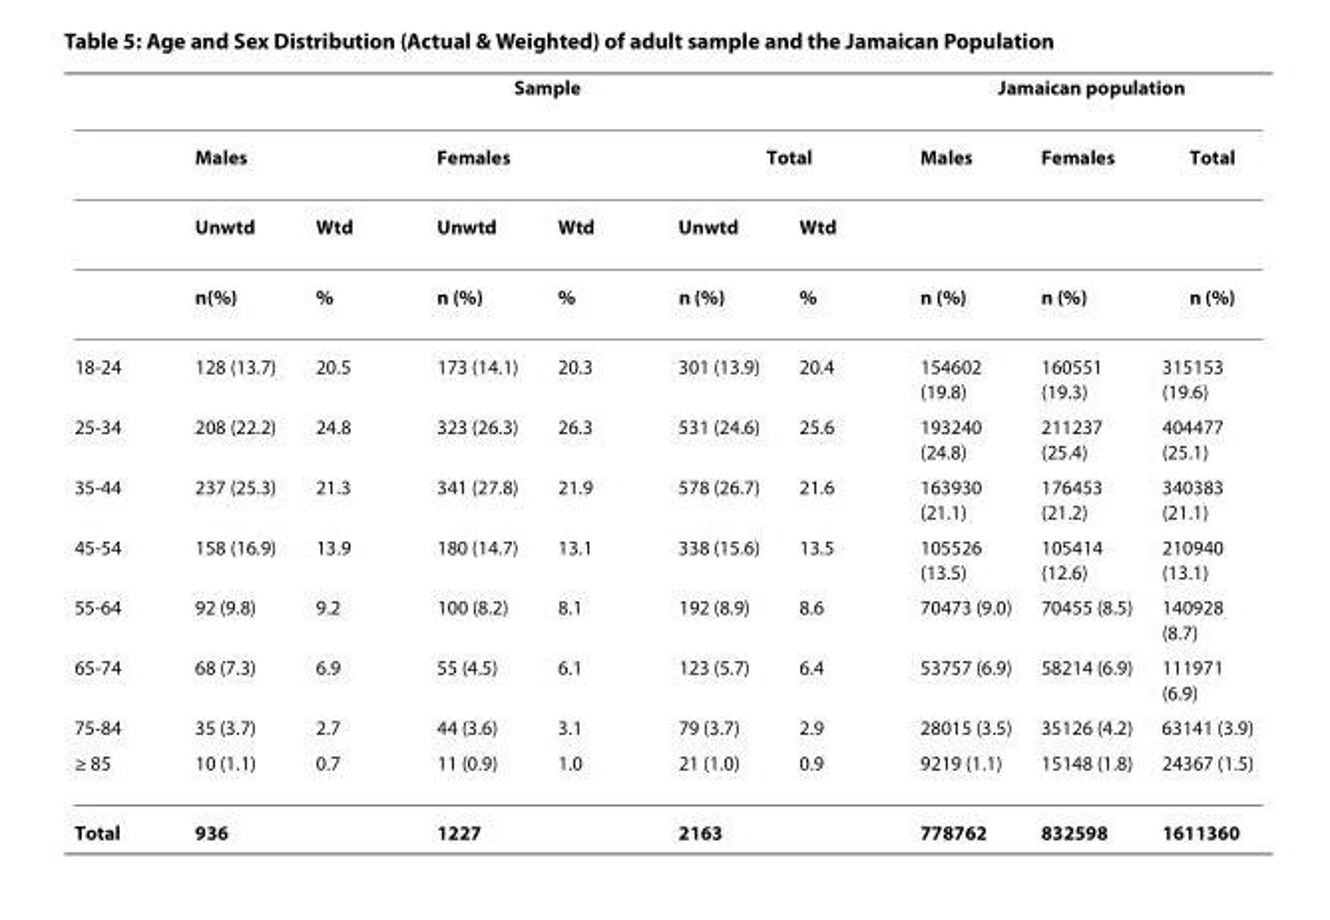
<table><thead><tr><td rowspan="3"></td><td colspan="6">Sample</td><td colspan="3">Jamaican population</td></tr><tr><td colspan="2">Males</td><td colspan="2">Females</td><td colspan="2">Total</td><td rowspan="2">Males</td><td rowspan="2">Females</td><td rowspan="2">Total</td></tr><tr><td>Unwtd</td><td>Wtd</td><td>Unwtd</td><td>Wtd</td><td>Unwtd</td><td>Wtd</td></tr></thead><tbody><tr><td></td><td>n(%)</td><td>%</td><td>n (%)</td><td>%</td><td>n (%)</td><td>%</td><td>n (%)</td><td>n (%)</td><td>n (%)</td></tr><tr><td>18-24</td><td>128 (13.7)</td><td>20.5</td><td>173 (14.1)</td><td>20.3</td><td>301 (13.9)</td><td>20.4</td><td>154602 (19.8)</td><td>160551 (19.3)</td><td>315153 (19.6)</td></tr><tr><td>25-34</td><td>208 (22.2)</td><td>24.8</td><td>323 (26.3)</td><td>26.3</td><td>531 (24.6)</td><td>25.6</td><td>193240 (24.8)</td><td>211237 (25.4)</td><td>404477 (25.1)</td></tr><tr><td>35-44</td><td>237 (25.3)</td><td>21.3</td><td>341 (27.8)</td><td>21.9</td><td>578 (26.7)</td><td>21.6</td><td>163930 (21.1)</td><td>176453 (21.2)</td><td>340383 (21.1)</td></tr><tr><td>45-54</td><td>158 (16.9)</td><td>13.9</td><td>180 (14.7)</td><td>13.1</td><td>338 (15.6)</td><td>13.5</td><td>105526 (13.5)</td><td>105414 (12.6)</td><td>210940 (13.1)</td></tr><tr><td>55-64</td><td>92 (9.8)</td><td>9.2</td><td>100 (8.2)</td><td>8.1</td><td>192 (8.9)</td><td>8.6</td><td>70473 (9.0)</td><td>70455 (8.5)</td><td>140928 (8.7)</td></tr><tr><td>65-74</td><td>68 (7.3)</td><td>6.9</td><td>55 (4.5)</td><td>6.1</td><td>123 (5.7)</td><td>6.4</td><td>53757 (6.9)</td><td>58214 (6.9)</td><td>111971 (6.9)</td></tr><tr><td>75-84</td><td>35 (3.7)</td><td>2.7</td><td>44 (3.6)</td><td>3.1</td><td>79 (3.7)</td><td>2.9</td><td>28015 (3.5)</td><td>35126 (4.2)</td><td>63141 (3.9)</td></tr><tr><td>≥ 85</td><td>10 (1.1)</td><td>0.7</td><td>11 (0.9)</td><td>1.0</td><td>21 (1.0)</td><td>0.9</td><td>9219 (1.1)</td><td>15148 (1.8)</td><td>24367 (1.5)</td></tr><tr><td>Total</td><td>936</td><td></td><td>1227</td><td></td><td>2163</td><td></td><td>778762</td><td>832598</td><td>1611360</td></tr></tbody></table>